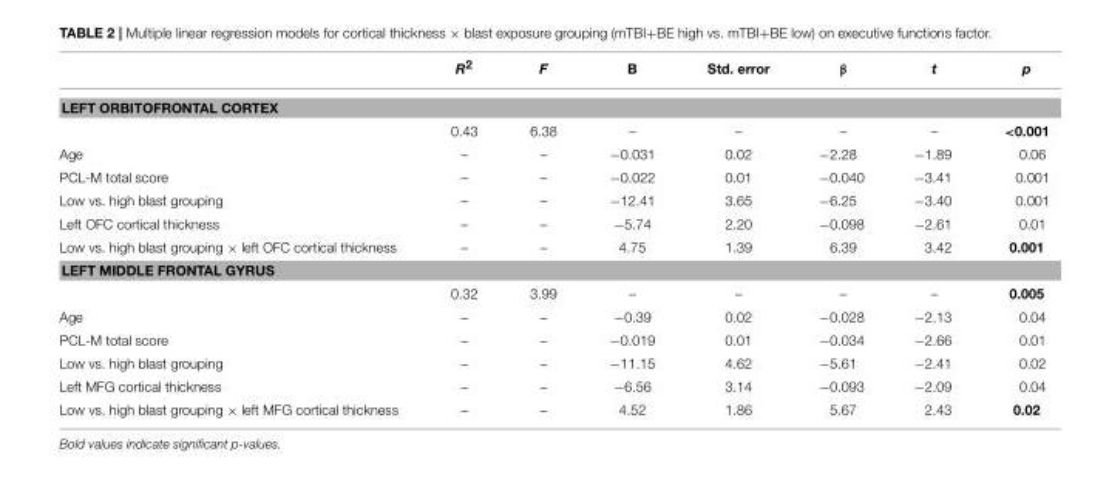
<table><thead><tr><td></td><td>R<sup>2</sup></td><td>F</td><td>B</td><td>Std. error</td><td>β</td><td>t</td><td>p</td></tr></thead><tbody><tr><td colspan="8">LEFT ORBITOFRONTAL CORTEX</td></tr><tr><td></td><td>0.43</td><td>6.38</td><td>–</td><td>–</td><td>–</td><td>–</td><td>&lt;0.001</td></tr><tr><td>Age</td><td>–</td><td>–</td><td>−0.031</td><td>0.02</td><td>−2.28</td><td>−1.89</td><td>0.06</td></tr><tr><td>PCL-M total score</td><td>–</td><td>–</td><td>−0.022</td><td>0.01</td><td>−0.040</td><td>−3.41</td><td>0.001</td></tr><tr><td>Low vs. high blast grouping</td><td>–</td><td>–</td><td>−12.41</td><td>3.65</td><td>−6.25</td><td>−3.40</td><td>0.001</td></tr><tr><td>Left OFC cortical thickness</td><td>–</td><td>–</td><td>−5.74</td><td>2.20</td><td>−0.098</td><td>−2.61</td><td>0.01</td></tr><tr><td>Low vs. high blast grouping × left OFC cortical thickness</td><td>–</td><td>–</td><td>4.75</td><td>1.39</td><td>6.39</td><td>3.42</td><td>0.001</td></tr><tr><td colspan="8">LEFT MIDDLE FRONTAL GYRUS</td></tr><tr><td></td><td>0.32</td><td>3.99</td><td>–</td><td>–</td><td>–</td><td>–</td><td>0.005</td></tr><tr><td>Age</td><td>–</td><td>–</td><td>−0.39</td><td>0.02</td><td>−0.028</td><td>−2.13</td><td>0.04</td></tr><tr><td>PCL-M total score</td><td>–</td><td>–</td><td>−0.019</td><td>0.01</td><td>−0.034</td><td>−2.66</td><td>0.01</td></tr><tr><td>Low vs. high blast grouping</td><td>–</td><td>–</td><td>−11.15</td><td>4.62</td><td>−5.61</td><td>−2.41</td><td>0.02</td></tr><tr><td>Left MFG cortical thickness</td><td>–</td><td>–</td><td>−6.56</td><td>3.14</td><td>−0.093</td><td>−2.09</td><td>0.04</td></tr><tr><td>Low vs. high blast grouping × left MFG cortical thickness</td><td>–</td><td>–</td><td>4.52</td><td>1.86</td><td>5.67</td><td>2.43</td><td>0.02</td></tr></tbody></table>